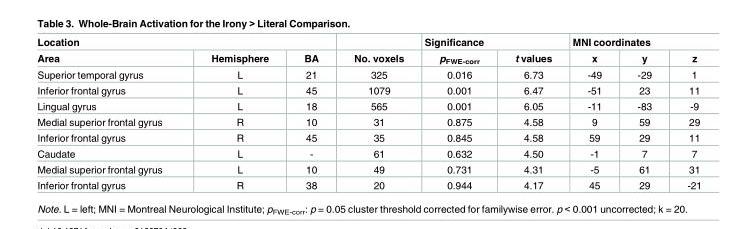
<table><thead><tr><td colspan="3">Location</td><td rowspan="2">No. voxels</td><td colspan="2">Significance</td><td colspan="3">MNI coordinates</td></tr><tr><td>Area</td><td>Hemisphere</td><td>BA</td><td>p<sub>FWE-corr</sub></td><td>t values</td><td>x</td><td>y</td><td>z</td></tr></thead><tbody><tr><td>Superior temporal gyrus</td><td>L</td><td>21</td><td>325</td><td>0.016</td><td>6.73</td><td>-49</td><td>-29</td><td>1</td></tr><tr><td>Inferior frontal gyrus</td><td>L</td><td>45</td><td>1079</td><td>0.001</td><td>6.47</td><td>-51</td><td>23</td><td>11</td></tr><tr><td>Lingual gyrus</td><td>L</td><td>18</td><td>565</td><td>0.001</td><td>6.05</td><td>-11</td><td>-83</td><td>-9</td></tr><tr><td>Medial superior frontal gyrus</td><td>R</td><td>10</td><td>31</td><td>0.875</td><td>4.58</td><td>9</td><td>59</td><td>29</td></tr><tr><td>Inferior frontal gyrus</td><td>R</td><td>45</td><td>35</td><td>0.845</td><td>4.58</td><td>59</td><td>29</td><td>11</td></tr><tr><td>Caudate</td><td>L</td><td>-</td><td>61</td><td>0.632</td><td>4.50</td><td>-1</td><td>7</td><td>7</td></tr><tr><td>Medial superior frontal gyrus</td><td>L</td><td>10</td><td>49</td><td>0.731</td><td>4.31</td><td>-5</td><td>61</td><td>31</td></tr><tr><td>Inferior frontal gyrus</td><td>R</td><td>38</td><td>20</td><td>0.944</td><td>4.17</td><td>45</td><td>29</td><td>-21</td></tr></tbody></table>